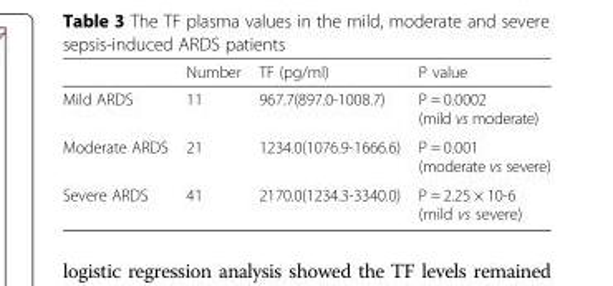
<table><thead><tr><td></td><td>Number</td><td>TF (pg/ml)</td><td>P value</td></tr></thead><tbody><tr><td>Mild ARDS</td><td>11</td><td>967.7(897.0-1008.7)</td><td>P = 0.0002 (mild vs moderate)</td></tr><tr><td>Moderate ARDS</td><td>21</td><td>1234.0(1076.9-1666.6)</td><td>P = 0.001 (moderate vs severe)</td></tr><tr><td>Severe ARDS</td><td>41</td><td>2170.0(1234.3-3340.0)</td><td>P = 2.25 × 10-6 (mild vs severe)</td></tr></tbody></table>